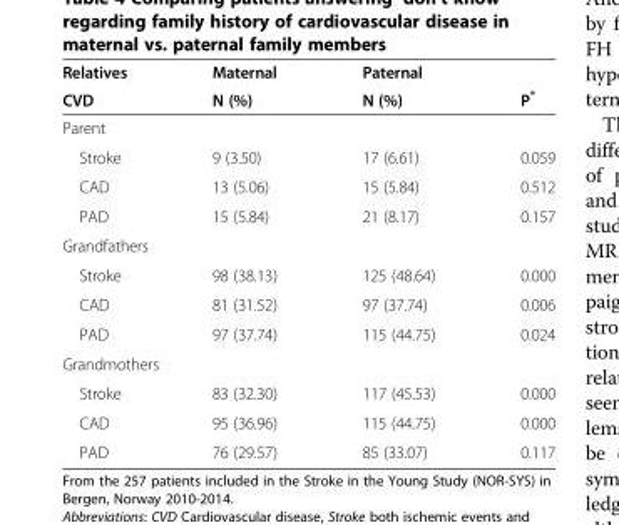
<table><thead><tr><td rowspan="2">Relatives CVD</td><td rowspan="2">Maternal N (%)</td><td rowspan="2">Paternal N (%)</td><td rowspan="2">P*</td></tr><tr></tr></thead><tbody><tr><td colspan="4">Parent</td></tr><tr><td>Stroke</td><td>9 (3.50)</td><td>17 (6.61)</td><td>0.059</td></tr><tr><td>CAD</td><td>13 (5.06)</td><td>15 (5.84)</td><td>0.512</td></tr><tr><td>PAD</td><td>15 (5.84)</td><td>21 (8.17)</td><td>0.157</td></tr><tr><td colspan="4">Grandfathers</td></tr><tr><td>Stroke</td><td>98 (38.13)</td><td>125 (48.64)</td><td>0.000</td></tr><tr><td>CAD</td><td>81 (31.52)</td><td>97 (37.74)</td><td>0.006</td></tr><tr><td>PAD</td><td>97 (37.74)</td><td>115 (44.75)</td><td>0.024</td></tr><tr><td colspan="4">Grandmothers</td></tr><tr><td>Stroke</td><td>83 (32.30)</td><td>117 (45.53)</td><td>0.000</td></tr><tr><td>CAD</td><td>95 (36.96)</td><td>115 (44.75)</td><td>0.000</td></tr><tr><td>PAD</td><td>76 (29.57)</td><td>85 (33.07)</td><td>0.117</td></tr></tbody></table>